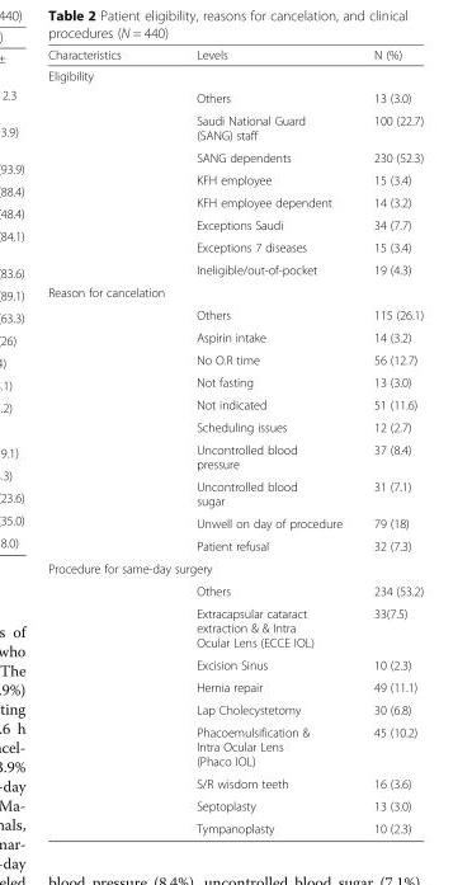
<table><thead><tr><td>Characteristics</td><td>Levels</td><td>N (%)</td></tr></thead><tbody><tr><td colspan="3">Eligibility</td></tr><tr><td></td><td>Others</td><td>13 (3.0)</td></tr><tr><td></td><td>Saudi National Guard (SANG) staff</td><td>100 (22.7)</td></tr><tr><td></td><td>SANG dependents</td><td>230 (52.3)</td></tr><tr><td></td><td>KFH employee</td><td>15 (3.4)</td></tr><tr><td></td><td>KFH employee dependent</td><td>14 (3.2)</td></tr><tr><td></td><td>Exceptions Saudi</td><td>34 (7.7)</td></tr><tr><td></td><td>Exceptions 7 diseases</td><td>15 (3.4)</td></tr><tr><td></td><td>Ineligible/out-of-pocket</td><td>19 (4.3)</td></tr><tr><td colspan="3">Reason for cancelation</td></tr><tr><td></td><td>Others</td><td>115 (26.1)</td></tr><tr><td></td><td>Aspirin intake</td><td>14 (3.2)</td></tr><tr><td></td><td>No O.R time</td><td>56 (12.7)</td></tr><tr><td></td><td>Not fasting</td><td>13 (3.0)</td></tr><tr><td></td><td>Not indicated</td><td>51 (11.6)</td></tr><tr><td></td><td>Scheduling issues</td><td>12 (2.7)</td></tr><tr><td></td><td>Uncontrolled blood pressure</td><td>37 (8.4)</td></tr><tr><td></td><td>Uncontrolled blood sugar</td><td>31 (7.1)</td></tr><tr><td></td><td>Unwell on day of procedure</td><td>79 (18)</td></tr><tr><td></td><td>Patient refusal</td><td>32 (7.3)</td></tr><tr><td colspan="3">Procedure for same-day surgery</td></tr><tr><td></td><td>Others</td><td>234 (53.2)</td></tr><tr><td></td><td>Extracapsular cataract extraction &amp; &amp; Intra Ocular Lens (ECCE IOL)</td><td>33(7.5)</td></tr><tr><td></td><td>Excision Sinus</td><td>10 (2.3)</td></tr><tr><td></td><td>Hernia repair</td><td>49 (11.1)</td></tr><tr><td></td><td>Lap Cholecystetomy</td><td>30 (6.8)</td></tr><tr><td></td><td>Phacoemulsification &amp; Intra Ocular Lens (Phaco IOL)</td><td>45 (10.2)</td></tr><tr><td></td><td>S/R wisdom teeth</td><td>16 (3.6)</td></tr><tr><td></td><td>Septoplasty</td><td>13 (3.0)</td></tr><tr><td></td><td>Tympanoplasty</td><td>10 (2.3)</td></tr></tbody></table>